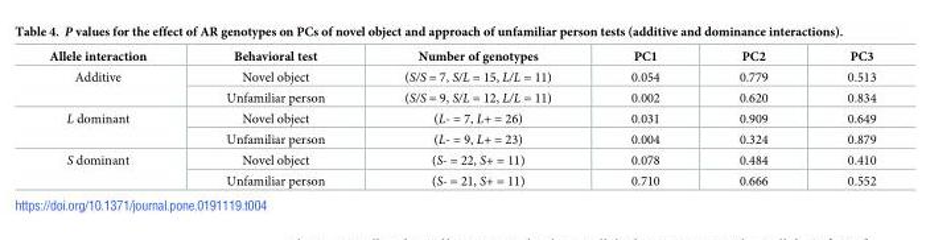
<table><thead><tr><td>Allele interaction</td><td>Behavioral test</td><td>Number of genotypes</td><td>PC1</td><td>PC2</td><td>PC3</td></tr></thead><tbody><tr><td rowspan="2">Additive</td><td>Novel object</td><td>(S/S = 7, S/L = 15, L/L = 11)</td><td>0.054</td><td>0.779</td><td>0.513</td></tr><tr><td>Unfamiliar person</td><td>(S/S = 9, S/L = 12, L/L = 11)</td><td>0.002</td><td>0.620</td><td>0.834</td></tr><tr><td rowspan="2">L dominant</td><td>Novel object</td><td>(L- = 7, L+ = 26)</td><td>0.031</td><td>0.909</td><td>0.649</td></tr><tr><td>Unfamiliar person</td><td>(L- = 9, L+ = 23)</td><td>0.004</td><td>0.324</td><td>0.879</td></tr><tr><td rowspan="2">S dominant</td><td>Novel object</td><td>(S- = 22, S+ = 11)</td><td>0.078</td><td>0.484</td><td>0.410</td></tr><tr><td>Unfamiliar person</td><td>(S- = 21, S+ = 11)</td><td>0.710</td><td>0.666</td><td>0.552</td></tr></tbody></table>